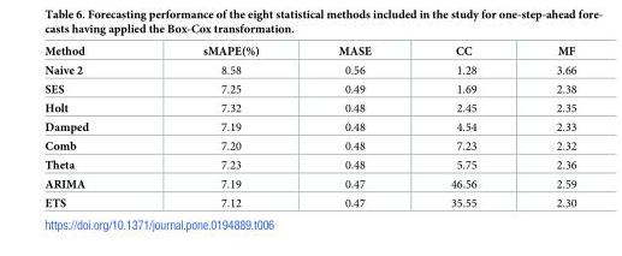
<table><thead><tr><td>Method</td><td>sMAPE(%)</td><td>MASE</td><td>CC</td><td>MF</td></tr></thead><tbody><tr><td>Naive 2</td><td>8.58</td><td>0.56</td><td>1.28</td><td>3.66</td></tr><tr><td>SES</td><td>7.25</td><td>0.49</td><td>1.69</td><td>2.38</td></tr><tr><td>Holt</td><td>7.32</td><td>0.48</td><td>2.45</td><td>2.35</td></tr><tr><td>Damped</td><td>7.19</td><td>0.48</td><td>4.54</td><td>2.33</td></tr><tr><td>Comb</td><td>7.20</td><td>0.48</td><td>7.23</td><td>2.32</td></tr><tr><td>Theta</td><td>7.23</td><td>0.48</td><td>5.75</td><td>2.36</td></tr><tr><td>ARIMA</td><td>7.19</td><td>0.47</td><td>46.56</td><td>2.59</td></tr><tr><td>ETS</td><td>7.12</td><td>0.47</td><td>35.55</td><td>2.30</td></tr></tbody></table>